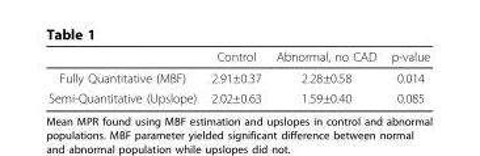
<table><thead><tr><td></td><td>Control</td><td>Abnormal, no CAD</td><td>p-value</td></tr></thead><tbody><tr><td>Fully Quantitative (MBF)</td><td>2.91±0.37</td><td>2.28±0.58</td><td>0.014</td></tr><tr><td>Semi-Quantitative (Upslope)</td><td>2.02±0.63</td><td>1.59±0.40</td><td>0.085</td></tr></tbody></table>